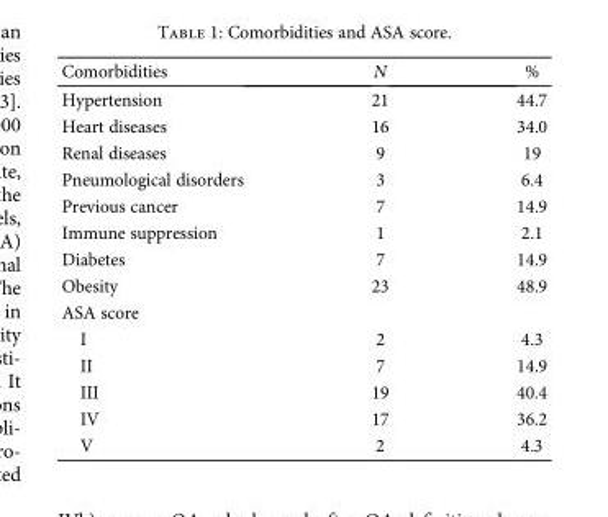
<table><thead><tr><td>Comorbidities</td><td>N</td><td>%</td></tr></thead><tbody><tr><td>Hypertension</td><td>21</td><td>44.7</td></tr><tr><td>Heart diseases</td><td>16</td><td>34.0</td></tr><tr><td>Renal diseases</td><td>9</td><td>19</td></tr><tr><td>Pneumological disorders</td><td>3</td><td>6.4</td></tr><tr><td>Previous cancer</td><td>7</td><td>14.9</td></tr><tr><td>Immune suppression</td><td>1</td><td>2.1</td></tr><tr><td>Diabetes</td><td>7</td><td>14.9</td></tr><tr><td>Obesity</td><td>23</td><td>48.9</td></tr><tr><td colspan="3">ASA score</td></tr><tr><td>I</td><td>2</td><td>4.3</td></tr><tr><td>II</td><td>7</td><td>14.9</td></tr><tr><td>III</td><td>19</td><td>40.4</td></tr><tr><td>IV</td><td>17</td><td>36.2</td></tr><tr><td>V</td><td>2</td><td>4.3</td></tr></tbody></table>